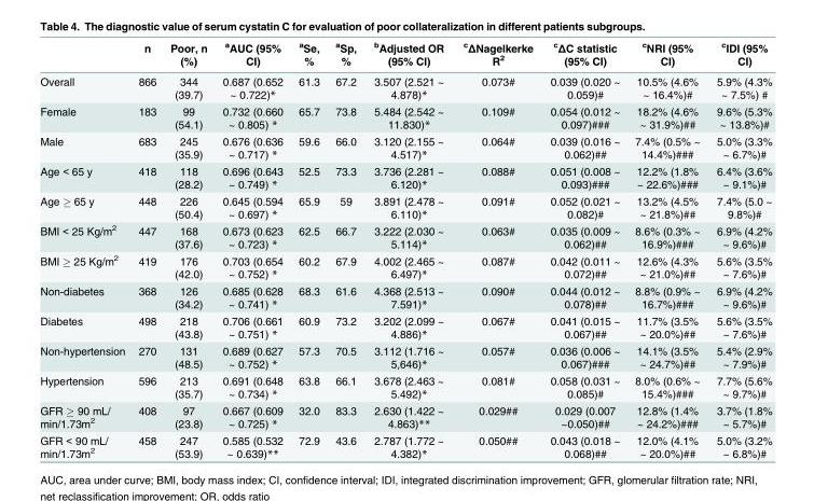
<table><thead><tr><td></td><td>n</td><td>Poor, n (%)</td><td><sup>a</sup>AUC (95% CI)</td><td><sup>a</sup>Se, %</td><td><sup>a</sup>Sp, %</td><td><sup>b</sup>Adjusted OR (95% CI)</td><td><sup>c</sup>ΔNagelkerke R<sup>2</sup></td><td><sup>c</sup>ΔC statistic (95% CI)</td><td><sup>c</sup>NRI (95% CI)</td><td><sup>c</sup>IDI (95% CI)</td></tr></thead><tbody><tr><td>Overall</td><td>866</td><td>344 (39.7)</td><td>0.687 (0.652 ~ 0.722)*</td><td>61.3</td><td>67.2</td><td>3.507 (2.521 ~ 4.878)*</td><td>0.073#</td><td>0.039 (0.020 ~ 0.059)#</td><td>10.5% (4.6% ~ 16.4%)#</td><td>5.9% (4.3% ~ 7.5%) #</td></tr><tr><td>Female</td><td>183</td><td>99 (54.1)</td><td>0.732 (0.660 ~ 0.805) *</td><td>65.7</td><td>73.8</td><td>5.484 (2.542 ~ 11.830)*</td><td>0.109#</td><td>0.054 (0.012 ~ 0.097)###</td><td>18.2% (4.6% ~ 31.9%)##</td><td>9.6% (5.3% ~ 13.8%)#</td></tr><tr><td>Male</td><td>683</td><td>245 (35.9)</td><td>0.676 (0.636 ~ 0.717) *</td><td>59.6</td><td>66.0</td><td>3.120 (2.155 ~ 4.517)*</td><td>0.064#</td><td>0.039 (0.016 ~ 0.062)##</td><td>7.4% (0.5% ~ 14.4%)###</td><td>5.0% (3.3% ~ 6.7%)#</td></tr><tr><td>Age &lt; 65 y</td><td>418</td><td>118 (28.2)</td><td>0.696 (0.643 ~ 0.749) *</td><td>52.5</td><td>73.3</td><td>3.736 (2.281 ~ 6.120)*</td><td>0.088#</td><td>0.051 (0.008 ~ 0.093)###</td><td>12.2% (1.8% ~ 22.6%)###</td><td>6.4% (3.6% ~ 9.1%)#</td></tr><tr><td>Age ≥ 65 y</td><td>448</td><td>226 (50.4)</td><td>0.645 (0.594 ~ 0.697) *</td><td>65.9</td><td>59</td><td>3.891 (2.478 ~ 6.110)*</td><td>0.091#</td><td>0.052 (0.021 ~ 0.082)#</td><td>13.2% (4.5% ~ 21.8%)##</td><td>7.4% (5.0 ~ 9.8%)#</td></tr><tr><td>BMI &lt; 25 Kg/m<sup>2</sup></td><td>447</td><td>168 (37.6)</td><td>0.673 (0.623 ~ 0.723) *</td><td>62.5</td><td>66.7</td><td>3.222 (2.030 ~ 5.114)*</td><td>0.063#</td><td>0.035 (0.009 ~ 0.062)##</td><td>8.6% (0.3% ~ 16.9%)###</td><td>6.9% (4.2% ~ 9.6%)#</td></tr><tr><td>BMI ≥ 25 Kg/m<sup>2</sup></td><td>419</td><td>176 (42.0)</td><td>0.703 (0.654 ~ 0.752) *</td><td>60.2</td><td>67.9</td><td>4.002 (2.465 ~ 6.497)*</td><td>0.087#</td><td>0.042 (0.011 ~ 0.072)##</td><td>12.6% (4.3% ~ 21.0%)##</td><td>5.6% (3.5% ~ 7.6%)#</td></tr><tr><td>Non-diabetes</td><td>368</td><td>126 (34.2)</td><td>0.685 (0.628 ~ 0.741) *</td><td>68.3</td><td>61.6</td><td>4.368 (2.513 ~ 7.591)*</td><td>0.090#</td><td>0.044 (0.012 ~ 0.078)##</td><td>8.8% (0.9% ~ 16.7%)###</td><td>6.9% (4.2% ~ 9.6%)#</td></tr><tr><td>Diabetes</td><td>498</td><td>218 (43.8)</td><td>0.706 (0.661 ~ 0.751) *</td><td>60.9</td><td>73.2</td><td>3.202 (2.099 ~ 4.886)*</td><td>0.067#</td><td>0.041 (0.015 ~ 0.067)##</td><td>11.7% (3.5% ~ 20.0%)##</td><td>5.6% (3.5% ~ 7.6%)#</td></tr><tr><td>Non-hypertension</td><td>270</td><td>131 (48.5)</td><td>0.689 (0.627 ~ 0.752) *</td><td>57.3</td><td>70.5</td><td>3.112 (1.716 ~ 5,646)*</td><td>0.057#</td><td>0.036 (0.006 ~ 0.067)###</td><td>14.1% (3.5% ~ 24.7%)##</td><td>5.4% (2.9% ~ 7.9%)#</td></tr><tr><td>Hypertension</td><td>596</td><td>213 (35.7)</td><td>0.691 (0.648 ~ 0.734) *</td><td>63.8</td><td>66.1</td><td>3.678 (2.463 ~ 5.492)*</td><td>0.081#</td><td>0.058 (0.031 ~ 0.085)#</td><td>8.0% (0.6% ~ 15.4%)###</td><td>7.7% (5.6% ~ 9.7%)#</td></tr><tr><td>GFR ≥ 90 mL/ min/1.73m<sup>2</sup></td><td>408</td><td>97 (23.8)</td><td>0.667 (0.609 ~ 0.725) *</td><td>32.0</td><td>83.3</td><td>2.630 (1.422 ~ 4.863)**</td><td>0.029##</td><td>0.029 (0.007 ~0.050)##</td><td>12.8% (1.4% ~ 24.2%)###</td><td>3.7% (1.8% ~ 5.7%)#</td></tr><tr><td>GFR &lt; 90 mL/ min/1.73m<sup>2</sup></td><td>458</td><td>247 (53.9)</td><td>0.585 (0.532 ~ 0.639)**</td><td>72.9</td><td>43.6</td><td>2.787 (1.772 ~ 4.382)*</td><td>0.050##</td><td>0.043 (0.018 ~ 0.068)##</td><td>12.0% (4.1% ~ 20.0%)##</td><td>5.0% (3.2% ~ 6.8%)#</td></tr></tbody></table>